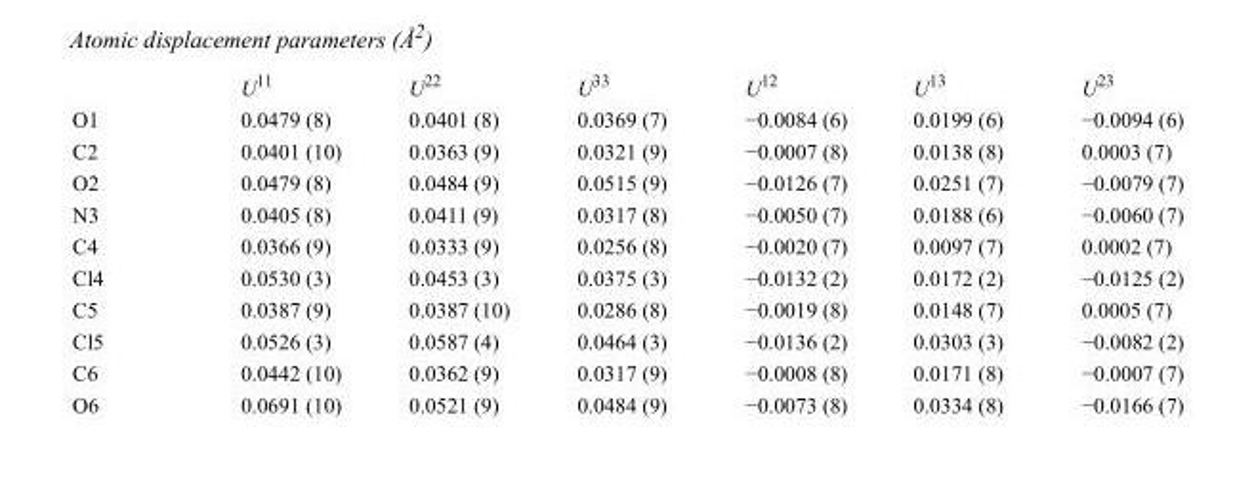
<table><thead><tr><td></td><td>U<sup>11</sup></td><td>U<sup>22</sup></td><td>U<sup>33</sup></td><td>U<sup>12</sup></td><td>U<sup>13</sup></td><td>U<sup>23</sup></td></tr></thead><tbody><tr><td>O1</td><td>0.0479 (8)</td><td>0.0401 (8)</td><td>0.0369 (7)</td><td>−0.0084 (6)</td><td>0.0199 (6)</td><td>−0.0094 (6)</td></tr><tr><td>C2</td><td>0.0401 (10)</td><td>0.0363 (9)</td><td>0.0321 (9)</td><td>−0.0007 (8)</td><td>0.0138 (8)</td><td>0.0003 (7)</td></tr><tr><td>O2</td><td>0.0479 (8)</td><td>0.0484 (9)</td><td>0.0515 (9)</td><td>−0.0126 (7)</td><td>0.0251 (7)</td><td>−0.0079 (7)</td></tr><tr><td>N3</td><td>0.0405 (8)</td><td>0.0411 (9)</td><td>0.0317 (8)</td><td>−0.0050 (7)</td><td>0.0188 (6)</td><td>−0.0060 (7)</td></tr><tr><td>C4</td><td>0.0366 (9)</td><td>0.0333 (9)</td><td>0.0256 (8)</td><td>−0.0020 (7)</td><td>0.0097 (7)</td><td>0.0002 (7)</td></tr><tr><td>Cl4</td><td>0.0530 (3)</td><td>0.0453 (3)</td><td>0.0375 (3)</td><td>−0.0132 (2)</td><td>0.0172 (2)</td><td>−0.0125 (2)</td></tr><tr><td>C5</td><td>0.0387 (9)</td><td>0.0387 (10)</td><td>0.0286 (8)</td><td>−0.0019 (8)</td><td>0.0148 (7)</td><td>0.0005 (7)</td></tr><tr><td>Cl5</td><td>0.0526 (3)</td><td>0.0587 (4)</td><td>0.0464 (3)</td><td>−0.0136 (2)</td><td>0.0303 (3)</td><td>−0.0082 (2)</td></tr><tr><td>C6</td><td>0.0442 (10)</td><td>0.0362 (9)</td><td>0.0317 (9)</td><td>−0.0008 (8)</td><td>0.0171 (8)</td><td>−0.0007 (7)</td></tr><tr><td>O6</td><td>0.0691 (10)</td><td>0.0521 (9)</td><td>0.0484 (9)</td><td>−0.0073 (8)</td><td>0.0334 (8)</td><td>−0.0166 (7)</td></tr></tbody></table>